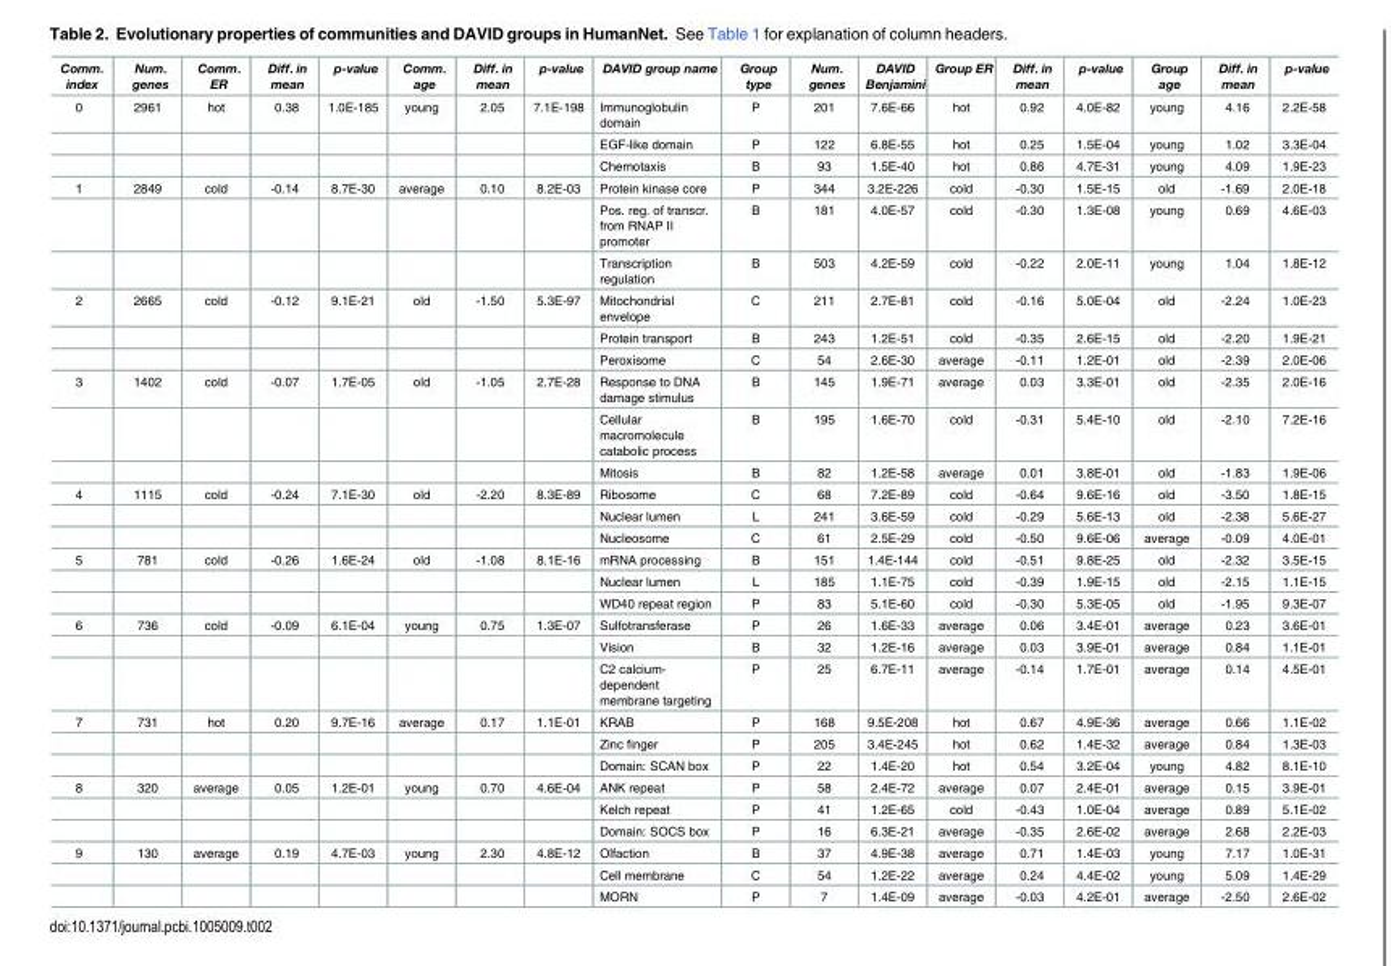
<table><thead><tr><td>Comm. index</td><td>Num. genes</td><td>Comm. ER</td><td>Diff. in mean</td><td>p-value</td><td>Comm. age</td><td>Diff. in mean</td><td>p-value</td><td>DAVID group name</td><td>Group type</td><td>Num. genes</td><td>DAVID Benjamini</td><td>Group ER</td><td>Diff. in mean</td><td>p-value</td><td>Group age</td><td>Diff. in mean</td><td>p-value</td></tr></thead><tbody><tr><td rowspan="3">0</td><td>2961</td><td>hot</td><td>0.38</td><td>1.0E-185</td><td>young</td><td>2.05</td><td>7.1E-198</td><td>Immunoglobulin domain</td><td>P</td><td>201</td><td>7.6E-66</td><td>hot</td><td>0.92</td><td>4.0E-82</td><td>young</td><td>4.16</td><td>2.2E-58</td></tr><tr><td></td><td></td><td></td><td></td><td></td><td></td><td></td><td>EGF-like domain</td><td>P</td><td>122</td><td>6.8E-55</td><td>hot</td><td>0.25</td><td>1.5E-04</td><td>young</td><td>1.02</td><td>3.3E-04</td></tr><tr><td></td><td></td><td></td><td></td><td></td><td></td><td></td><td>Chemotaxis</td><td>B</td><td>93</td><td>1.5E-40</td><td>hot</td><td>0.86</td><td>4.7E-31</td><td>young</td><td>4.09</td><td>1.9E-23</td></tr><tr><td rowspan="3">1</td><td>2849</td><td>cold</td><td>-0.14</td><td>8.7E-30</td><td>average</td><td>0.10</td><td>8.2E-03</td><td>Protein kinase core</td><td>P</td><td>344</td><td>3.2E-226</td><td>cold</td><td>-0.30</td><td>1.5E-15</td><td>old</td><td>-1.69</td><td>2.0E-18</td></tr><tr><td></td><td></td><td></td><td></td><td></td><td></td><td></td><td>Pos. reg. of transcr. from RNAP II promoter</td><td>B</td><td>181</td><td>4.0E-57</td><td>cold</td><td>-0.30</td><td>1.3E-08</td><td>young</td><td>0.69</td><td>4.6E-03</td></tr><tr><td></td><td></td><td></td><td></td><td></td><td></td><td></td><td>Transcription regulation</td><td>B</td><td>503</td><td>4.2E-59</td><td>cold</td><td>-0.22</td><td>2.0E-11</td><td>young</td><td>1.04</td><td>1.8E-12</td></tr><tr><td rowspan="3">2</td><td>2665</td><td>cold</td><td>-0.12</td><td>9.1E-21</td><td>old</td><td>-1.50</td><td>5.3E-97</td><td>Mitochondrial envelope</td><td>C</td><td>211</td><td>2.7E-81</td><td>cold</td><td>-0.16</td><td>5.0E-04</td><td>old</td><td>-2.24</td><td>1.0E-23</td></tr><tr><td></td><td></td><td></td><td></td><td></td><td></td><td></td><td>Protein transport</td><td>B</td><td>243</td><td>1.2E-51</td><td>cold</td><td>-0.35</td><td>2.6E-15</td><td>old</td><td>-2.20</td><td>1.9E-21</td></tr><tr><td></td><td></td><td></td><td></td><td></td><td></td><td></td><td>Peroxisome</td><td>C</td><td>54</td><td>2.6E-30</td><td>average</td><td>-0.11</td><td>1.2E-01</td><td>old</td><td>-2.39</td><td>2.0E-06</td></tr><tr><td rowspan="3">3</td><td>1402</td><td>cold</td><td>-0.07</td><td>1.7E-05</td><td>old</td><td>-1.05</td><td>2.7E-28</td><td>Response to DNA damage stimulus</td><td>B</td><td>145</td><td>1.9E-71</td><td>average</td><td>0.03</td><td>3.3E-01</td><td>old</td><td>-2.35</td><td>2.0E-16</td></tr><tr><td></td><td></td><td></td><td></td><td></td><td></td><td></td><td>Cellular macromolecule catabolic process</td><td>B</td><td>195</td><td>1.6E-70</td><td>cold</td><td>-0.31</td><td>5.4E-10</td><td>old</td><td>-2.10</td><td>7.2E-16</td></tr><tr><td></td><td></td><td></td><td></td><td></td><td></td><td></td><td>Mitosis</td><td>B</td><td>82</td><td>1.2E-58</td><td>average</td><td>0.01</td><td>3.8E-01</td><td>old</td><td>-1.83</td><td>1.9E-06</td></tr><tr><td rowspan="3">4</td><td>1115</td><td>cold</td><td>-0.24</td><td>7.1E-30</td><td>old</td><td>-2.20</td><td>8.3E-89</td><td>Ribosome</td><td>C</td><td>68</td><td>7.2E-89</td><td>cold</td><td>-0.64</td><td>9.6E-16</td><td>old</td><td>-3.50</td><td>1.8E-15</td></tr><tr><td></td><td></td><td></td><td></td><td></td><td></td><td></td><td>Nuclear lumen</td><td>L</td><td>241</td><td>3.6E-59</td><td>cold</td><td>-0.29</td><td>5.6E-13</td><td>old</td><td>-2.38</td><td>5.6E-27</td></tr><tr><td></td><td></td><td></td><td></td><td></td><td></td><td></td><td>Nucleosome</td><td>C</td><td>61</td><td>2.5E-29</td><td>cold</td><td>-0.50</td><td>9.6E-06</td><td>average</td><td>-0.09</td><td>4.0E-01</td></tr><tr><td rowspan="3">5</td><td>781</td><td>cold</td><td>-0.26</td><td>1.6E-24</td><td>old</td><td>-1.08</td><td>8.1E-16</td><td>mRNA processing</td><td>B</td><td>151</td><td>1.4E-144</td><td>cold</td><td>-0.51</td><td>9.8E-25</td><td>old</td><td>-2.32</td><td>3.5E-15</td></tr><tr><td></td><td></td><td></td><td></td><td></td><td></td><td></td><td>Nuclear lumen</td><td>L</td><td>185</td><td>1.1E-75</td><td>cold</td><td>-0.39</td><td>1.9E-15</td><td>old</td><td>-2.15</td><td>1.1E-15</td></tr><tr><td></td><td></td><td></td><td></td><td></td><td></td><td></td><td>WD40 repeat region</td><td>P</td><td>83</td><td>5.1E-60</td><td>cold</td><td>-0.30</td><td>5.3E-05</td><td>old</td><td>-1.95</td><td>9.3E-07</td></tr><tr><td rowspan="3">6</td><td>736</td><td>cold</td><td>-0.09</td><td>6.1E-04</td><td>young</td><td>0.75</td><td>1.3E-07</td><td>Sulfotransferase</td><td>P</td><td>26</td><td>1.6E-33</td><td>average</td><td>0.06</td><td>3.4E-01</td><td>average</td><td>0.23</td><td>3.6E-01</td></tr><tr><td></td><td></td><td></td><td></td><td></td><td></td><td></td><td>Vision</td><td>B</td><td>32</td><td>1.2E-16</td><td>average</td><td>0.03</td><td>3.9E-01</td><td>average</td><td>0.84</td><td>1.1E-01</td></tr><tr><td></td><td></td><td></td><td></td><td></td><td></td><td></td><td>C2 calcium- dependent membrane targeting</td><td>P</td><td>25</td><td>6.7E-11</td><td>average</td><td>-0.14</td><td>1.7E-01</td><td>average</td><td>0.14</td><td>4.5E-01</td></tr><tr><td rowspan="3">7</td><td>731</td><td>hot</td><td>0.20</td><td>9.7E-16</td><td>average</td><td>0.17</td><td>1.1E-01</td><td>KRAB</td><td>P</td><td>168</td><td>9.5E-208</td><td>hot</td><td>0.67</td><td>4.9E-36</td><td>average</td><td>0.66</td><td>1.1E-02</td></tr><tr><td></td><td></td><td></td><td></td><td></td><td></td><td></td><td>Zinc finger</td><td>P</td><td>205</td><td>3.4E-245</td><td>hot</td><td>0.62</td><td>1.4E-32</td><td>average</td><td>0.84</td><td>1.3E-03</td></tr><tr><td></td><td></td><td></td><td></td><td></td><td></td><td></td><td>Domain: SCAN box</td><td>P</td><td>22</td><td>1.4E-20</td><td>hot</td><td>0.54</td><td>3.2E-04</td><td>young</td><td>4.82</td><td>8.1E-10</td></tr><tr><td rowspan="3">8</td><td>320</td><td>average</td><td>0.05</td><td>1.2E-01</td><td>young</td><td>0.70</td><td>4.6E-04</td><td>ANK repeat</td><td>P</td><td>58</td><td>2.4E-72</td><td>average</td><td>0.07</td><td>2.4E-01</td><td>average</td><td>0.15</td><td>3.9E-01</td></tr><tr><td></td><td></td><td></td><td></td><td></td><td></td><td></td><td>Kelch repeat</td><td>P</td><td>41</td><td>1.2E-65</td><td>cold</td><td>-0.43</td><td>1.0E-04</td><td>average</td><td>0.89</td><td>5.1E-02</td></tr><tr><td></td><td></td><td></td><td></td><td></td><td></td><td></td><td>Domain: SOCS box</td><td>P</td><td>16</td><td>6.3E-21</td><td>average</td><td>-0.35</td><td>2.6E-02</td><td>average</td><td>2.68</td><td>2.2E-03</td></tr><tr><td rowspan="3">9</td><td>130</td><td>average</td><td>0.19</td><td>4.7E-03</td><td>young</td><td>2.30</td><td>4.8E-12</td><td>Olfaction</td><td>B</td><td>37</td><td>4.9E-38</td><td>average</td><td>0.71</td><td>1.4E-03</td><td>young</td><td>7.17</td><td>1.0E-31</td></tr><tr><td></td><td></td><td></td><td></td><td></td><td></td><td></td><td>Cell membrane</td><td>C</td><td>54</td><td>1.2E-22</td><td>average</td><td>0.24</td><td>4.4E-02</td><td>young</td><td>5.09</td><td>1.4E-29</td></tr><tr><td></td><td></td><td></td><td></td><td></td><td></td><td></td><td>MORN</td><td>P</td><td>7</td><td>1.4E-09</td><td>average</td><td>-0.03</td><td>4.2E-01</td><td>average</td><td>-2.50</td><td>2.6E-02</td></tr></tbody></table>